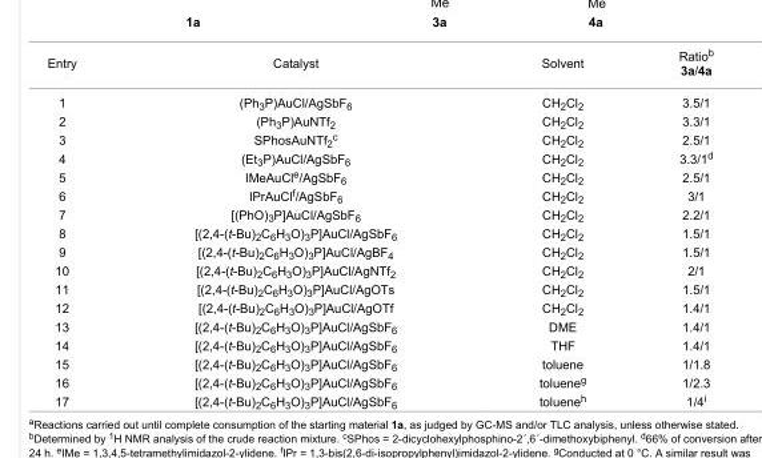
<table><tbody><tr><td>Entry</td><td>Catalyst</td><td>Solvent</td><td>Ratio<sup>b</sup> 3a/4a</td></tr><tr><td>1</td><td>(Ph<sub>3</sub>P)AuCl/AgSbF<sub>6</sub></td><td>CH<sub>2</sub>Cl<sub>2</sub></td><td>3.5/1</td></tr><tr><td>2</td><td>(Ph<sub>3</sub>P)AuNTf<sub>2</sub></td><td>CH<sub>2</sub>Cl<sub>2</sub></td><td>3.3/1</td></tr><tr><td>3</td><td>SPhosAuNTf<sub>2</sub><sup>c</sup></td><td>CH<sub>2</sub>Cl<sub>2</sub></td><td>2.5/1</td></tr><tr><td>4</td><td>(Et<sub>3</sub>P)AuCl/AgSbF<sub>6</sub></td><td>CH<sub>2</sub>Cl<sub>2</sub></td><td>3.3/1<sup>d</sup></td></tr><tr><td>5</td><td>IMeAuCl<sup>e</sup>/AgSbF<sub>6</sub></td><td>CH<sub>2</sub>Cl<sub>2</sub></td><td>2.5/1</td></tr><tr><td>6</td><td>IPrAuCl<sup>f</sup>/AgSbF<sub>6</sub></td><td>CH<sub>2</sub>Cl<sub>2</sub></td><td>3/1</td></tr><tr><td>7</td><td>[(PhO)<sub>3</sub>P]AuCl/AgSbF<sub>6</sub></td><td>CH<sub>2</sub>Cl<sub>2</sub></td><td>2.2/1</td></tr><tr><td>8</td><td>[(2,4-(t-Bu)<sub>2</sub>C<sub>6</sub>H<sub>3</sub>O)<sub>3</sub>P]AuCl/AgSbF<sub>6</sub></td><td>CH<sub>2</sub>Cl<sub>2</sub></td><td>1.5/1</td></tr><tr><td>9</td><td>[(2,4-(t-Bu)<sub>2</sub>C<sub>6</sub>H<sub>3</sub>O)<sub>3</sub>P]AuCl/AgBF<sub>4</sub></td><td>CH<sub>2</sub>Cl<sub>2</sub></td><td>1.5/1</td></tr><tr><td>10</td><td>[(2,4-(t-Bu)<sub>2</sub>C<sub>6</sub>H<sub>3</sub>O)<sub>3</sub>P]AuCl/AgNTf<sub>2</sub></td><td>CH<sub>2</sub>Cl<sub>2</sub></td><td>2/1</td></tr><tr><td>11</td><td>[(2,4-(t-Bu)<sub>2</sub>C<sub>6</sub>H<sub>3</sub>O)<sub>3</sub>P]AuCl/AgOTs</td><td>CH<sub>2</sub>Cl<sub>2</sub></td><td>1.5/1</td></tr><tr><td>12</td><td>[(2,4-(t-Bu)<sub>2</sub>C<sub>6</sub>H<sub>3</sub>O)<sub>3</sub>P]AuCl/AgOTf</td><td>CH<sub>2</sub>Cl<sub>2</sub></td><td>1.4/1</td></tr><tr><td>13</td><td>[(2,4-(t-Bu)<sub>2</sub>C<sub>6</sub>H<sub>3</sub>O)<sub>3</sub>P]AuCl/AgSbF<sub>6</sub></td><td>DME</td><td>1.4/1</td></tr><tr><td>14</td><td>[(2,4-(t-Bu)<sub>2</sub>C<sub>6</sub>H<sub>3</sub>O)<sub>3</sub>P]AuCl/AgSbF<sub>6</sub></td><td>THF</td><td>1.4/1</td></tr><tr><td>15</td><td>[(2,4-(t-Bu)<sub>2</sub>C<sub>6</sub>H<sub>3</sub>O)<sub>3</sub>P]AuCl/AgSbF<sub>6</sub></td><td>toluene</td><td>1/1.8</td></tr><tr><td>16</td><td>[(2,4-(t-Bu)<sub>2</sub>C<sub>6</sub>H<sub>3</sub>O)<sub>3</sub>P]AuCl/AgSbF<sub>6</sub></td><td>toluene<sup>g</sup></td><td>1/2.3</td></tr><tr><td>17</td><td>[(2,4-(t-Bu)<sub>2</sub>C<sub>6</sub>H<sub>3</sub>O)<sub>3</sub>P]AuCl/AgSbF<sub>6</sub></td><td>toluene<sup>h</sup></td><td>1/4<sup>i</sup></td></tr></tbody></table>